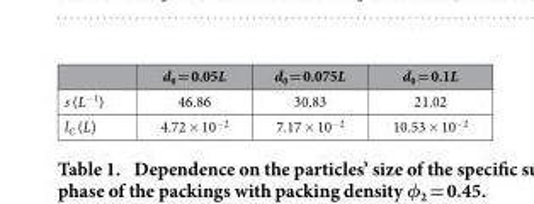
<table><thead><tr><td></td><td>d<sub>0</sub> = 0.05L</td><td>d<sub>0</sub> = 0.075L</td><td>d<sub>0</sub> = 0.1L</td></tr></thead><tbody><tr><td>s (L<sup>−1</sup>)</td><td>46.86</td><td>30.83</td><td>21.02</td></tr><tr><td>l<sub>C</sub> (L)</td><td>4.72 × 10<sup>−2</sup></td><td>7.17 × 10<sup>−2</sup></td><td>10.53 × 10<sup>−2</sup></td></tr></tbody></table>